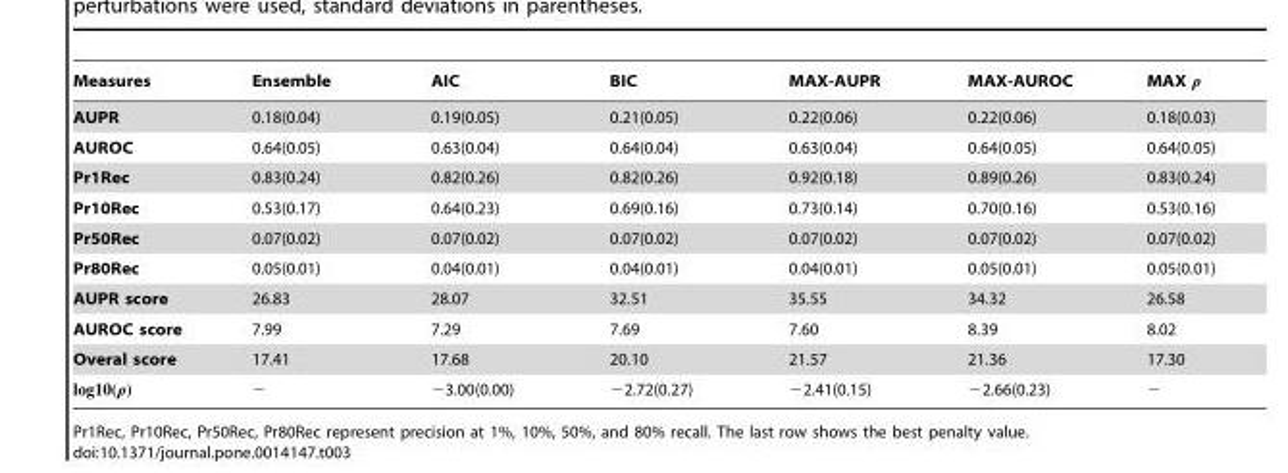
<table><thead><tr><td>Measures</td><td>Ensemble</td><td>AIC</td><td>BIC</td><td>MAX-AUPR</td><td>MAX-AUROC</td><td>MAX r</td></tr></thead><tbody><tr><td>AUPR</td><td>0.18(0.04)</td><td>0.19(0.05)</td><td>0.21(0.05)</td><td>0.22(0.06)</td><td>0.22(0.06)</td><td>0.18(0.03)</td></tr><tr><td>AUROC</td><td>0.64(0.05)</td><td>0.63(0.04)</td><td>0.64(0.04)</td><td>0.63(0.04)</td><td>0.64(0.05)</td><td>0.64(0.05)</td></tr><tr><td>Pr1Rec</td><td>0.83(0.24)</td><td>0.82(0.26)</td><td>0.82(0.26)</td><td>0.92(0.18)</td><td>0.89(0.26)</td><td>0.83(0.24)</td></tr><tr><td>Pr10Rec</td><td>0.53(0.17)</td><td>0.64(0.23)</td><td>0.69(0.16)</td><td>0.73(0.14)</td><td>0.70(0.16)</td><td>0.53(0.16)</td></tr><tr><td>Pr50Rec</td><td>0.07(0.02)</td><td>0.07(0.02)</td><td>0.07(0.02)</td><td>0.07(0.02)</td><td>0.07(0.02)</td><td>0.07(0.02)</td></tr><tr><td>Pr80Rec</td><td>0.05(0.01)</td><td>0.04(0.01)</td><td>0.04(0.01)</td><td>0.04(0.01)</td><td>0.05(0.01)</td><td>0.05(0.01)</td></tr><tr><td>AUPR score</td><td>26.83</td><td>28.07</td><td>32.51</td><td>35.55</td><td>34.32</td><td>26.58</td></tr><tr><td>AUROC score</td><td>7.99</td><td>7.29</td><td>7.69</td><td>7.60</td><td>8.39</td><td>8.02</td></tr><tr><td rowspan="2">Overal score log10(r)</td><td>17.41</td><td>17.68</td><td>20.10</td><td>21.57</td><td>21.36</td><td>17.30</td></tr><tr><td>−</td><td>−3.00(0.00)</td><td>−2.72(0.27)</td><td>−2.41(0.15)</td><td>−2.66(0.23)</td><td>−</td></tr></tbody></table>